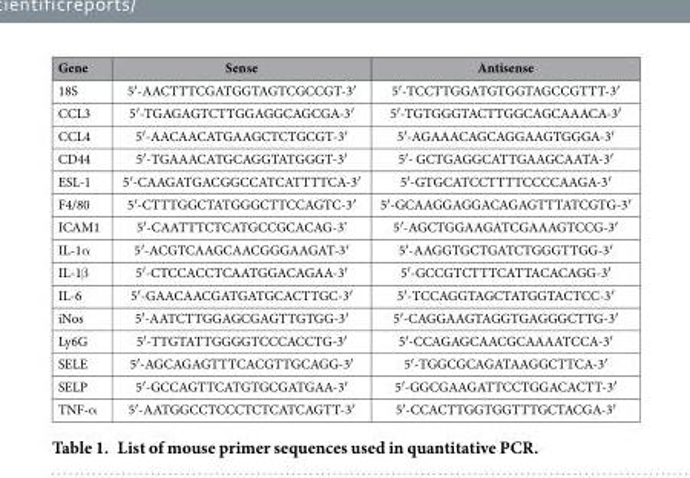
<table><thead><tr><td>Gene</td><td>Sense</td><td>Antisense</td></tr></thead><tbody><tr><td>18S</td><td>5′ -AACTTTCGATGGTAGTCGCCGT-3′</td><td>5′ -TCCTTGGATGTGGTAGCCGTTT-3′</td></tr><tr><td>CCL3</td><td>5′ -TGAGAGTCTTGGAGGCAGCGA-3′</td><td>5′ -TGTGGGTACTTGGCAGCAAACA-3′</td></tr><tr><td>CCL4</td><td>5′ -AACAACATGAAGCTCTGCGT-3′</td><td>5′ -AGAAACAGCAGGAAGTGGGA-3′</td></tr><tr><td>CD44</td><td>5′ -TGAAACATGCAGGTATGGGT-3′</td><td>5′ - GCTGAGGCATTGAAGCAATA-3′</td></tr><tr><td>ESL-1</td><td>5′ -CAAGATGACGGCCATCATTTTCA-3′</td><td>5′ -GTGCATCCTTTTCCCCAAGA-3′</td></tr><tr><td>F4/80</td><td>5′ -CTTTGGCTATGGGCTTCCAGTC-3′</td><td>5′ -GCAAGGAGGACAGAGTTTATCGTG-3′</td></tr><tr><td>ICAM1</td><td>5′ -CAATTTCTCATGCCGCACAG-3’</td><td>5′ -AGCTGGAAGATCGAAAGTCCG-3′</td></tr><tr><td>IL-1α</td><td>5′ -ACGTCAAGCAACGGGAAGAT-3′</td><td>5′ -AAGGTGCTGATCTGGGTTGG-3′</td></tr><tr><td>IL-1β</td><td>5′ -CTCCACCTCAATGGACAGAA-3′</td><td>5′ -GCCGTCTTTCATTACACAGG-3′</td></tr><tr><td>IL-6</td><td>5′ -GAACAACGATGATGCACTTGC-3′</td><td>5′ -TCCAGGTAGCTATGGTACTCC-3′</td></tr><tr><td>iNos</td><td>5′ -AATCTTGGAGCGAGTTGTGG-3′</td><td>5′ -CAGGAAGTAGGTGAGGGCTTG-3′</td></tr><tr><td>Ly6G</td><td>5′ -TTGTATTGGGGTCCCACCTG-3′</td><td>5′ -CCAGAGCAACGCAAAATCCA-3′</td></tr><tr><td>SELE</td><td>5′ -AGCAGAGTTTCACGTTGCAGG-3′</td><td>5′ -TGGCGCAGATAAGGCTTCA-3′</td></tr><tr><td>SELP</td><td>5′ -GCCAGTTCATGTGCGATGAA-3′</td><td>5′ -GGCGAAGATTCCTGGACACTT-3′</td></tr><tr><td>TNF-α</td><td>5′ -AATGGCCTCCCTCTCATCAGTT-3′</td><td>5′ -CCACTTGGTGGTTTGCTACGA-3′</td></tr></tbody></table>